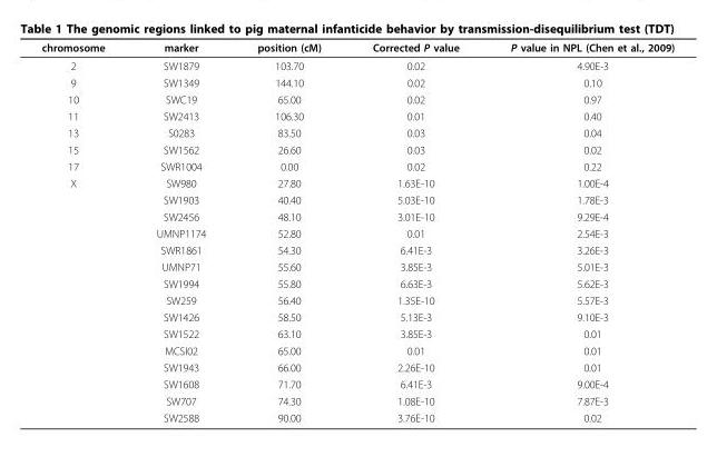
<table><thead><tr><td>chromosome</td><td>marker</td><td>position (cM)</td><td>Corrected P value</td><td>P value in NPL (Chen et al., 2009)</td></tr></thead><tbody><tr><td>2</td><td>SW1879</td><td>103.70</td><td>0.02</td><td>4.90E-3</td></tr><tr><td>9</td><td>SW1349</td><td>144.10</td><td>0.02</td><td>0.10</td></tr><tr><td>10</td><td>SWC19</td><td>65.00</td><td>0.02</td><td>0.97</td></tr><tr><td>11</td><td>SW2413</td><td>106.30</td><td>0.01</td><td>0.40</td></tr><tr><td>13</td><td>S0283</td><td>83.50</td><td>0.03</td><td>0.04</td></tr><tr><td>15</td><td>SW1562</td><td>26.60</td><td>0.03</td><td>0.02</td></tr><tr><td>17</td><td>SWR1004</td><td>0.00</td><td>0.02</td><td>0.22</td></tr><tr><td rowspan="15">X</td><td>SW980</td><td>27.80</td><td>1.63E-10</td><td>1.00E-4</td></tr><tr><td>SW1903</td><td>40.40</td><td>5.03E-10</td><td>1.78E-3</td></tr><tr><td>SW2456</td><td>48.10</td><td>3.01E-10</td><td>9.29E-4</td></tr><tr><td>UMNP1174</td><td>52.80</td><td>0.01</td><td>2.54E-3</td></tr><tr><td>SWR1861</td><td>54.30</td><td>6.41E-3</td><td>3.26E-3</td></tr><tr><td>UMNP71</td><td>55.60</td><td>3.85E-3</td><td>5.01E-3</td></tr><tr><td>SW1994</td><td>55.80</td><td>6.63E-3</td><td>5.62E-3</td></tr><tr><td>SW259</td><td>56.40</td><td>1.35E-10</td><td>5.57E-3</td></tr><tr><td>SW1426</td><td>58.50</td><td>5.13E-3</td><td>9.10E-3</td></tr><tr><td>SW1522</td><td>63.10</td><td>3.85E-3</td><td>0.01</td></tr><tr><td>MCSI02</td><td>65.00</td><td>0.01</td><td>0.01</td></tr><tr><td>SW1943</td><td>66.00</td><td>2.26E-10</td><td>0.01</td></tr><tr><td>SW1608</td><td>71.70</td><td>6.41E-3</td><td>9.00E-4</td></tr><tr><td>SW707</td><td>74.30</td><td>1.08E-10</td><td>7.87E-3</td></tr><tr><td>SW2588</td><td>90.00</td><td>3.76E-10</td><td>0.02</td></tr></tbody></table>